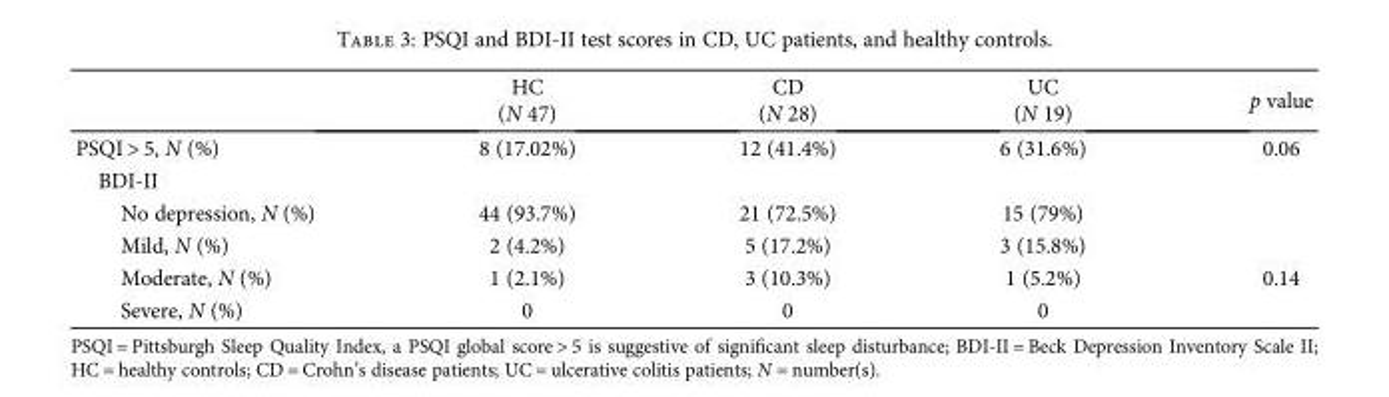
<table><thead><tr><td></td><td>HC (N 47)</td><td>CD (N 28)</td><td>UC (N 19)</td><td>p value</td></tr></thead><tbody><tr><td>PSQI &gt; 5, N (%)</td><td>8 (17.02%)</td><td>12 (41.4%)</td><td>6 (31.6%)</td><td>0.06</td></tr><tr><td colspan="5">BDI-II</td></tr><tr><td>No depression, N (%)</td><td>44 (93.7%)</td><td>21 (72.5%)</td><td>15 (79%)</td><td></td></tr><tr><td>Mild, N (%)</td><td>2 (4.2%)</td><td>5 (17.2%)</td><td>3 (15.8%)</td><td></td></tr><tr><td>Moderate, N (%)</td><td>1 (2.1%)</td><td>3 (10.3%)</td><td>1 (5.2%)</td><td>0.14</td></tr><tr><td>Severe, N (%)</td><td>0</td><td>0</td><td>0</td><td></td></tr></tbody></table>